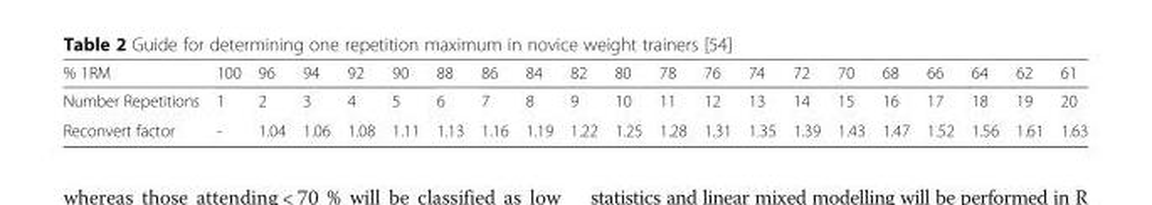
<table><thead><tr><td>% 1RM</td><td>100</td><td>96</td><td>94</td><td>92</td><td>90</td><td>88</td><td>86</td><td>84</td><td>82</td><td>80</td><td>78</td><td>76</td><td>74</td><td>72</td><td>70</td><td>68</td><td>66</td><td>64</td><td>62</td><td>61</td></tr></thead><tbody><tr><td>Number Repetitions</td><td>1</td><td>2</td><td>3</td><td>4</td><td>5</td><td>6</td><td>7</td><td>8</td><td>9</td><td>10</td><td>11</td><td>12</td><td>13</td><td>14</td><td>15</td><td>16</td><td>17</td><td>18</td><td>19</td><td>20</td></tr><tr><td>Reconvert factor</td><td>-</td><td>1.04</td><td>1.06</td><td>1.08</td><td>1.11</td><td>1.13</td><td>1.16</td><td>1.19</td><td>1.22</td><td>1.25</td><td>1.28</td><td>1.31</td><td>1.35</td><td>1.39</td><td>1.43</td><td>1.47</td><td>1.52</td><td>1.56</td><td>1.61</td><td>1.63</td></tr></tbody></table>